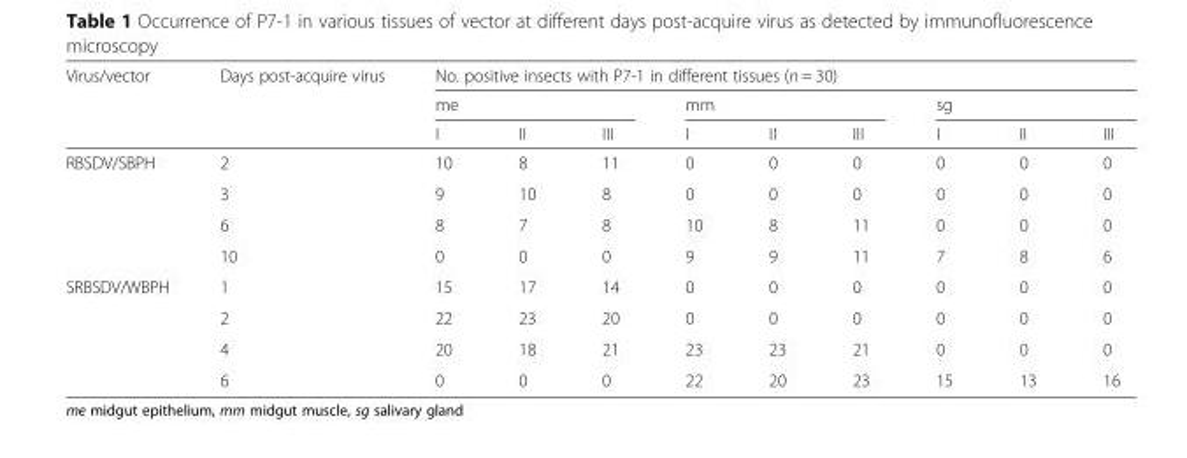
<table><thead><tr><td rowspan="3">Virus/vector</td><td rowspan="3">Days post-acquire virus</td><td colspan="9">No. positive insects with P7-1 in different tissues (n = 30)</td></tr><tr><td colspan="3">me</td><td colspan="3">mm</td><td colspan="3">sg</td></tr><tr><td>I</td><td>II</td><td>III</td><td>I</td><td>II</td><td>III</td><td>I</td><td>II</td><td>III</td></tr></thead><tbody><tr><td rowspan="4">RBSDV/SBPH</td><td>2</td><td>10</td><td>8</td><td>11</td><td>0</td><td>0</td><td>0</td><td>0</td><td>0</td><td>0</td></tr><tr><td>3</td><td>9</td><td>10</td><td>8</td><td>0</td><td>0</td><td>0</td><td>0</td><td>0</td><td>0</td></tr><tr><td>6</td><td>8</td><td>7</td><td>8</td><td>10</td><td>8</td><td>11</td><td>0</td><td>0</td><td>0</td></tr><tr><td>10</td><td>0</td><td>0</td><td>0</td><td>9</td><td>9</td><td>11</td><td>7</td><td>8</td><td>6</td></tr><tr><td rowspan="4">SRBSDV/WBPH</td><td>1</td><td>15</td><td>17</td><td>14</td><td>0</td><td>0</td><td>0</td><td>0</td><td>0</td><td>0</td></tr><tr><td>2</td><td>22</td><td>23</td><td>20</td><td>0</td><td>0</td><td>0</td><td>0</td><td>0</td><td>0</td></tr><tr><td>4</td><td>20</td><td>18</td><td>21</td><td>23</td><td>23</td><td>21</td><td>0</td><td>0</td><td>0</td></tr><tr><td>6</td><td>0</td><td>0</td><td>0</td><td>22</td><td>20</td><td>23</td><td>15</td><td>13</td><td>16</td></tr></tbody></table>